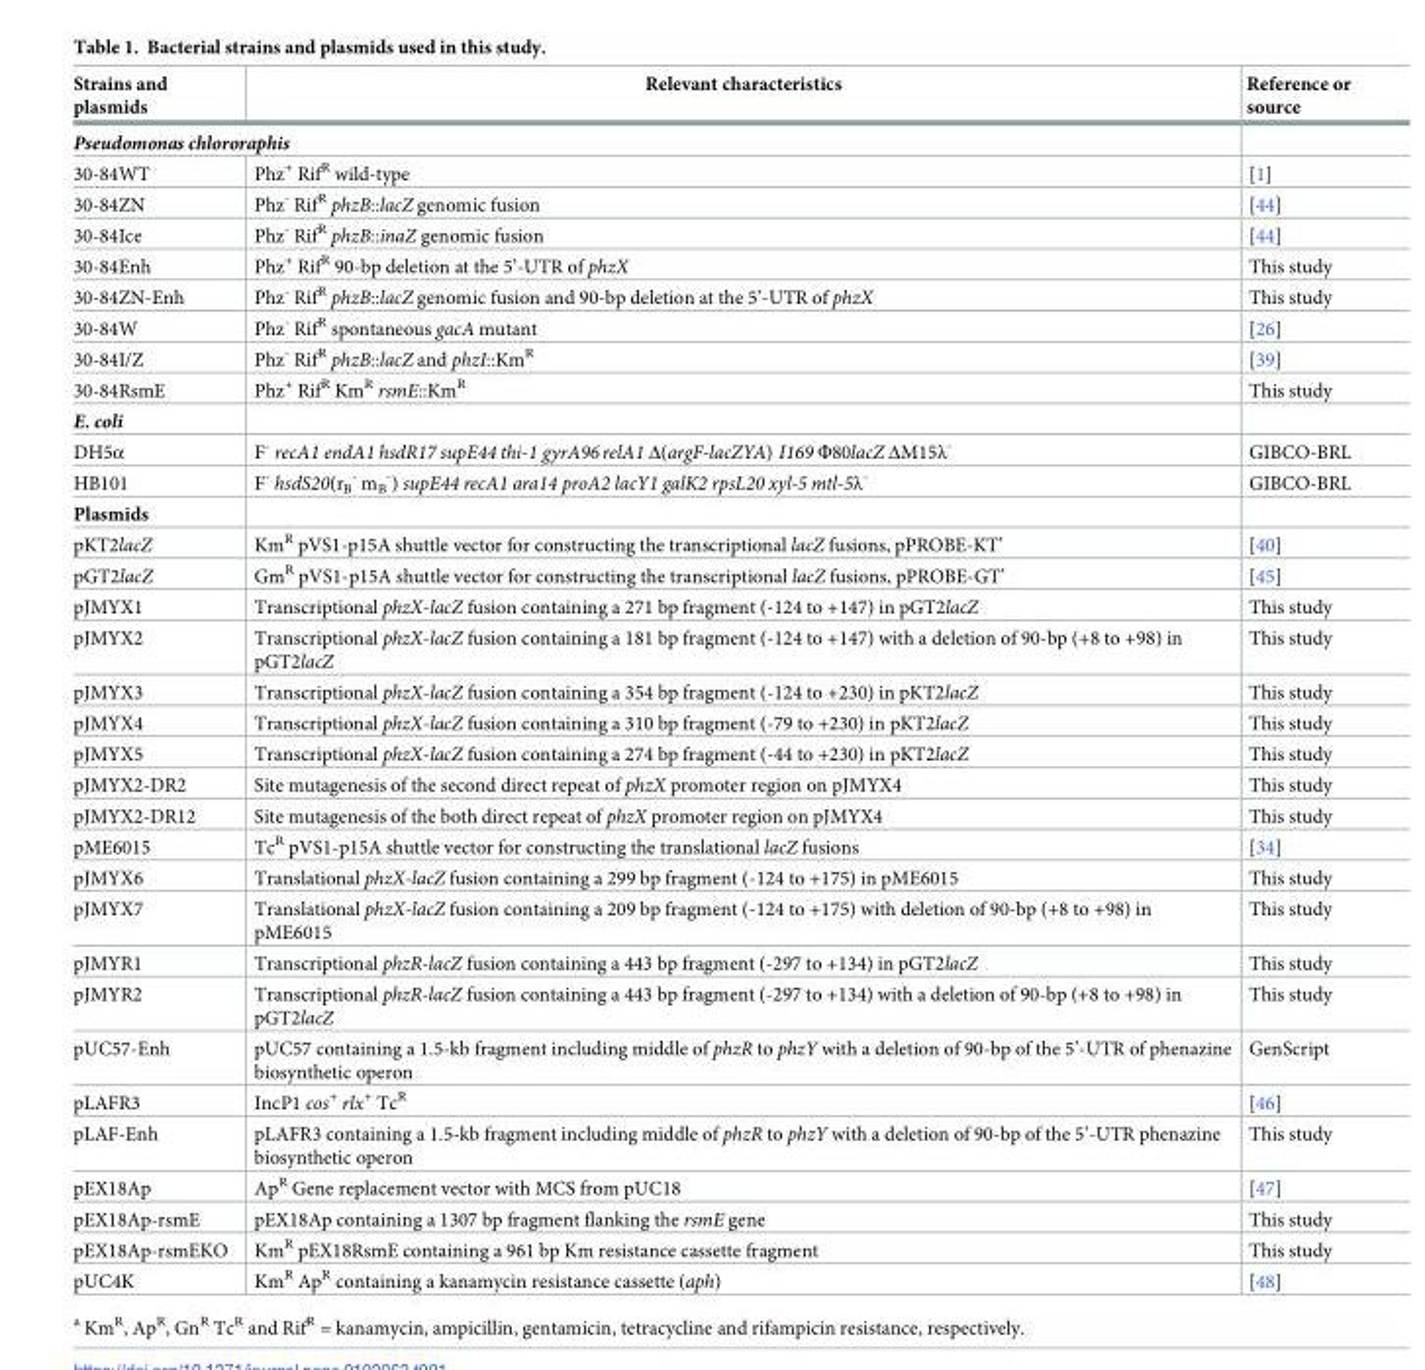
<table><thead><tr><td>Strains and plasmids</td><td>Relevant characteristics</td><td>Reference or source</td></tr></thead><tbody><tr><td colspan="3">Pseudomonas chlororaphis</td></tr><tr><td>30-84WT</td><td>Phz<sup>+</sup> Rif<sup>R</sup> wild-type</td><td>[1]</td></tr><tr><td>30-84ZN</td><td>Phz<sup>-</sup> Rif<sup>R</sup> phzB::lacZ genomic fusion</td><td>[44]</td></tr><tr><td>30-84Ice</td><td>Phz<sup>-</sup> Rif<sup>R</sup> phzB::inaZ genomic fusion</td><td>[44]</td></tr><tr><td>30-84Enh</td><td>Phz<sup>+</sup> Rif<sup>R</sup> 90-bp deletion at the 5’-UTR of phzX</td><td>This study</td></tr><tr><td>30-84ZN-Enh</td><td>Phz<sup>-</sup> Rif<sup>R</sup> phzB::lacZ genomic fusion and 90-bp deletion at the 5’-UTR of phzX</td><td>This study</td></tr><tr><td>30-84W</td><td>Phz<sup>-</sup> Rif<sup>R</sup> spontaneous gacA mutant</td><td>[26]</td></tr><tr><td>30-84I/Z</td><td>Phz<sup>-</sup> Rif<sup>R</sup> phzB::lacZ and phzI::Km<sup>R</sup></td><td>[39]</td></tr><tr><td>30-84RsmE</td><td>Phz<sup>+</sup> Rif<sup>R</sup> Km<sup>R</sup> rsmE::Km<sup>R</sup></td><td>This study</td></tr><tr><td colspan="3">E. coli</td></tr><tr><td>DH5α</td><td>F<sup>-</sup> recA1 endA1 hsdR17 supE44 thi-1 gyrA96 relA1 Δ(argF-lacZYA) I169 Φ80lacZ ΔM15λ<sup>-</sup></td><td>GIBCO-BRL</td></tr><tr><td>HB101</td><td>F<sup>-</sup> hsdS20(r<sub>B</sub> <sup>-</sup> m<sub>B</sub> <sup>-</sup>) supE44 recA1 ara14 proA2 lacY1 galK2 rpsL20 xyl-5 mtl-5λ<sup>-</sup></td><td>GIBCO-BRL</td></tr><tr><td colspan="3">Plasmids</td></tr><tr><td>pKT2lacZ</td><td>Km<sup>R</sup> pVS1-p15A shuttle vector for constructing the transcriptional lacZ fusions, pPROBE-KT’</td><td>[40]</td></tr><tr><td>pGT2lacZ</td><td>Gm<sup>R</sup> pVS1-p15A shuttle vector for constructing the transcriptional lacZ fusions, pPROBE-GT’</td><td>[45]</td></tr><tr><td>pJMYX1</td><td>Transcriptional phzX-lacZ fusion containing a 271 bp fragment (-124 to +147) in pGT2lacZ</td><td>This study</td></tr><tr><td>pJMYX2</td><td>Transcriptional phzX-lacZ fusion containing a 181 bp fragment (-124 to +147) with a deletion of 90-bp (+8 to +98) in pGT2lacZ</td><td>This study</td></tr><tr><td>pJMYX3</td><td>Transcriptional phzX-lacZ fusion containing a 354 bp fragment (-124 to +230) in pKT2lacZ</td><td>This study</td></tr><tr><td>pJMYX4</td><td>Transcriptional phzX-lacZ fusion containing a 310 bp fragment (-79 to +230) in pKT2lacZ</td><td>This study</td></tr><tr><td>pJMYX5</td><td>Transcriptional phzX-lacZ fusion containing a 274 bp fragment (-44 to +230) in pKT2lacZ</td><td>This study</td></tr><tr><td>pJMYX2-DR2</td><td>Site mutagenesis of the second direct repeat of phzX promoter region on pJMYX4</td><td>This study</td></tr><tr><td>pJMYX2-DR12</td><td>Site mutagenesis of the both direct repeat of phzX promoter region on pJMYX4</td><td>This study</td></tr><tr><td>pME6015</td><td>Tc<sup>R</sup> pVS1-p15A shuttle vector for constructing the translational lacZ fusions</td><td>[34]</td></tr><tr><td>pJMYX6</td><td>Translational phzX-lacZ fusion containing a 299 bp fragment (-124 to +175) in pME6015</td><td>This study</td></tr><tr><td>pJMYX7</td><td>Translational phzX-lacZ fusion containing a 209 bp fragment (-124 to +175) with deletion of 90-bp (+8 to +98) in pME6015</td><td>This study</td></tr><tr><td>pJMYR1</td><td>Transcriptional phzR-lacZ fusion containing a 443 bp fragment (-297 to +134) in pGT2lacZ</td><td>This study</td></tr><tr><td>pJMYR2</td><td>Transcriptional phzR-lacZ fusion containing a 443 bp fragment (-297 to +134) with a deletion of 90-bp (+8 to +98) in pGT2lacZ</td><td>This study</td></tr><tr><td>pUC57-Enh</td><td>pUC57 containing a 1.5-kb fragment including middle of phzR to phzY with a deletion of 90-bp of the 5’-UTR of phenazine biosynthetic operon</td><td>GenScript</td></tr><tr><td>pLAFR3</td><td>IncP1 cos<sup>+</sup> rlx<sup>+</sup> Tc<sup>R</sup></td><td>[46]</td></tr><tr><td>pLAF-Enh</td><td>pLAFR3 containing a 1.5-kb fragment including middle of phzR to phzY with a deletion of 90-bp of the 5’-UTR phenazine biosynthetic operon</td><td>This study</td></tr><tr><td>pEX18Ap</td><td>Ap<sup>R</sup> Gene replacement vector with MCS from pUC18</td><td>[47]</td></tr><tr><td>pEX18Ap-rsmE</td><td>pEX18Ap containing a 1307 bp fragment flanking the rsmE gene</td><td>This study</td></tr><tr><td>pEX18Ap-rsmEKO</td><td>Km<sup>R</sup> pEX18RsmE containing a 961 bp Km resistance cassette fragment</td><td>This study</td></tr><tr><td>pUC4K</td><td>Km<sup>R</sup> Ap<sup>R</sup> containing a kanamycin resistance cassette (aph)</td><td>[48]</td></tr></tbody></table>